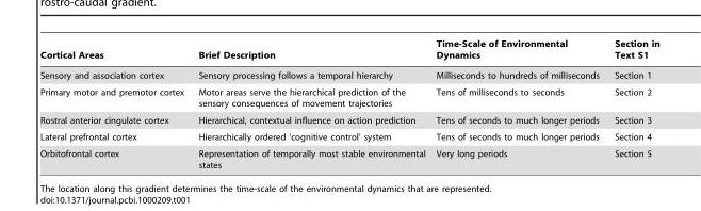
<table><thead><tr><td>Cortical Areas</td><td>Brief Description</td><td>Time-Scale of Environmental Dynamics</td><td>Section in Text S1</td></tr></thead><tbody><tr><td>Sensory and association cortex</td><td>Sensory processing follows a temporal hierarchy</td><td>Milliseconds to hundreds of milliseconds</td><td>Section 1</td></tr><tr><td>Primary motor and premotor cortex</td><td>Motor areas serve the hierarchical prediction of the sensory consequences of movement trajectories</td><td>Tens of milliseconds to seconds</td><td>Section 2</td></tr><tr><td>Rostral anterior cingulate cortex</td><td>Hierarchical, contextual influence on action prediction</td><td>Tens of seconds to much longer periods</td><td>Section 3</td></tr><tr><td>Lateral prefrontal cortex</td><td>Hierarchically ordered ‘cognitive control’ system</td><td>Tens of seconds to much longer periods</td><td>Section 4</td></tr><tr><td>Orbitofrontal cortex</td><td>Representation of temporally most stable environmental states</td><td>Very long periods</td><td>Section 5</td></tr></tbody></table>